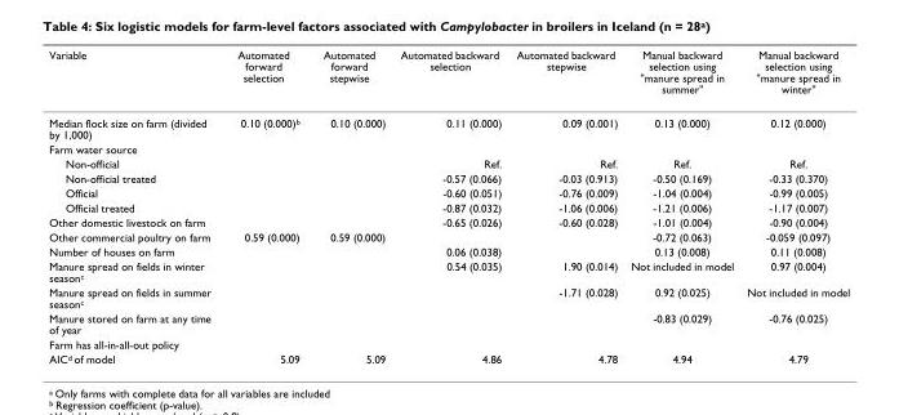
<table><thead><tr><td>Variable</td><td>Automated forward selection</td><td>Automated forward stepwise</td><td>Automated backward selection</td><td>Automated backward stepwise</td><td>Manual backward selection using &quot;manure spread in summer&quot;</td><td>Manual backward selection using &quot;manure spread in winter&quot;</td></tr></thead><tbody><tr><td>Median flock size on farm (divided by 1,000)</td><td>0.10 (0.000)<sup>b</sup></td><td>0.10 (0.000)</td><td>0.11 (0.000)</td><td>0.09 (0.001)</td><td>0.13 (0.000)</td><td>0.12 (0.000)</td></tr><tr><td colspan="7">Farm water source</td></tr><tr><td>Non-official</td><td></td><td></td><td>Ref.</td><td>Ref.</td><td>Ref.</td><td>Ref.</td></tr><tr><td>Non-official treated</td><td></td><td></td><td>-0.57 (0.066)</td><td>-0.03 (0.913)</td><td>-0.50 (0.169)</td><td>-0.33 (0.370)</td></tr><tr><td>Official</td><td></td><td></td><td>-0.60 (0.051)</td><td>-0.76 (0.009)</td><td>-1.04 (0.004)</td><td>-0.99 (0.005)</td></tr><tr><td>Official treated</td><td></td><td></td><td>-0.87 (0.032)</td><td>-1.06 (0.006)</td><td>-1.21 (0.006)</td><td>-1.17 (0.007)</td></tr><tr><td>Other domestic livestock on farm</td><td></td><td></td><td>-0.65 (0.026)</td><td>-0.60 (0.028)</td><td>-1.01 (0.004)</td><td>-0.90 (0.004)</td></tr><tr><td>Other commercial poultry on farm</td><td>0.59 (0.000)</td><td>0.59 (0.000)</td><td></td><td></td><td>-0.72 (0.063)</td><td>-0.059 (0.097)</td></tr><tr><td>Number of houses on farm</td><td></td><td></td><td>0.06 (0.038)</td><td></td><td>0.13 (0.008)</td><td>0.11 (0.008)</td></tr><tr><td>Manure spread on fields in winter season<sup>c</sup></td><td></td><td></td><td>0.54 (0.035)</td><td>1.90 (0.014)</td><td>Not included in model</td><td>0.97 (0.004)</td></tr><tr><td>Manure spread on fields in summer season<sup>c</sup></td><td></td><td></td><td></td><td>-1.71 (0.028)</td><td>0.92 (0.025)</td><td>Not included in model</td></tr><tr><td>Manure stored on farm at any time of year</td><td></td><td></td><td></td><td></td><td>-0.83 (0.029)</td><td>-0.76 (0.025)</td></tr><tr><td colspan="7">Farm has all-in-all-out policy</td></tr><tr><td>AIC<sup>d</sup> of model</td><td>5.09</td><td>5.09</td><td>4.86</td><td>4.78</td><td>4.94</td><td>4.79</td></tr></tbody></table>